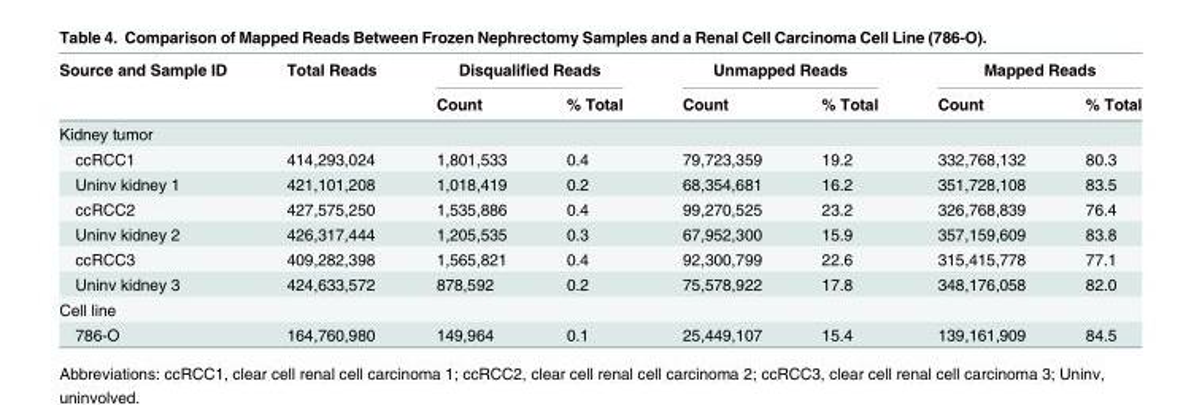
<table><thead><tr><td rowspan="2">Source and Sample ID</td><td rowspan="2">Total Reads</td><td colspan="2">Disqualified Reads</td><td colspan="2">Unmapped Reads</td><td colspan="2">Mapped Reads</td></tr><tr><td>Count</td><td>% Total</td><td>Count</td><td>% Total</td><td>Count</td><td>% Total</td></tr></thead><tbody><tr><td colspan="8">Kidney tumor</td></tr><tr><td>ccRCC1</td><td>414,293,024</td><td>1,801,533</td><td>0.4</td><td>79,723,359</td><td>19.2</td><td>332,768,132</td><td>80.3</td></tr><tr><td>Uninv kidney 1</td><td>421,101,208</td><td>1,018,419</td><td>0.2</td><td>68,354,681</td><td>16.2</td><td>351,728,108</td><td>83.5</td></tr><tr><td>ccRCC2</td><td>427,575,250</td><td>1,535,886</td><td>0.4</td><td>99,270,525</td><td>23.2</td><td>326,768,839</td><td>76.4</td></tr><tr><td>Uninv kidney 2</td><td>426,317,444</td><td>1,205,535</td><td>0.3</td><td>67,952,300</td><td>15.9</td><td>357,159,609</td><td>83.8</td></tr><tr><td>ccRCC3</td><td>409,282,398</td><td>1,565,821</td><td>0.4</td><td>92,300,799</td><td>22.6</td><td>315,415,778</td><td>77.1</td></tr><tr><td>Uninv kidney 3</td><td>424,633,572</td><td>878,592</td><td>0.2</td><td>75,578,922</td><td>17.8</td><td>348,176,058</td><td>82.0</td></tr><tr><td colspan="8">Cell line</td></tr><tr><td>786-O</td><td>164,760,980</td><td>149,964</td><td>0.1</td><td>25,449,107</td><td>15.4</td><td>139,161,909</td><td>84.5</td></tr></tbody></table>